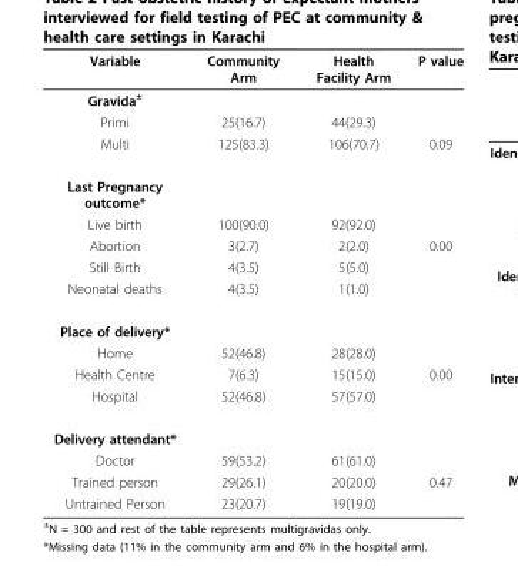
<table><thead><tr><td>Variable</td><td>Community Arm</td><td>Health Facility Arm</td><td>P value</td></tr></thead><tbody><tr><td colspan="4">Gravida<sup>±</sup></td></tr><tr><td>Primi</td><td>25(16.7)</td><td>44(29.3)</td><td></td></tr><tr><td>Multi</td><td>125(83.3)</td><td>106(70.7)</td><td>0.09</td></tr><tr><td colspan="4">Last Pregnancy outcome*</td></tr><tr><td>Live birth</td><td>100(90.0)</td><td>92(92.0)</td><td></td></tr><tr><td>Abortion</td><td>3(2.7)</td><td>2(2.0)</td><td>0.00</td></tr><tr><td>Still Birth</td><td>4(3.5)</td><td>5(5.0)</td><td></td></tr><tr><td>Neonatal deaths</td><td>4(3.5)</td><td>1(1.0)</td><td></td></tr><tr><td colspan="4">Place of delivery*</td></tr><tr><td>Home</td><td>52(46.8)</td><td>28(28.0)</td><td></td></tr><tr><td>Health Centre</td><td>7(6.3)</td><td>15(15.0)</td><td>0.00</td></tr><tr><td>Hospital</td><td>52(46.8)</td><td>57(57.0)</td><td></td></tr><tr><td colspan="4">Delivery attendant*</td></tr><tr><td>Doctor</td><td>59(53.2)</td><td>61(61.0)</td><td></td></tr><tr><td>Trained person</td><td>29(26.1)</td><td>20(20.0)</td><td>0.47</td></tr><tr><td>Untrained Person</td><td>23(20.7)</td><td>19(19.0)</td><td></td></tr></tbody></table>